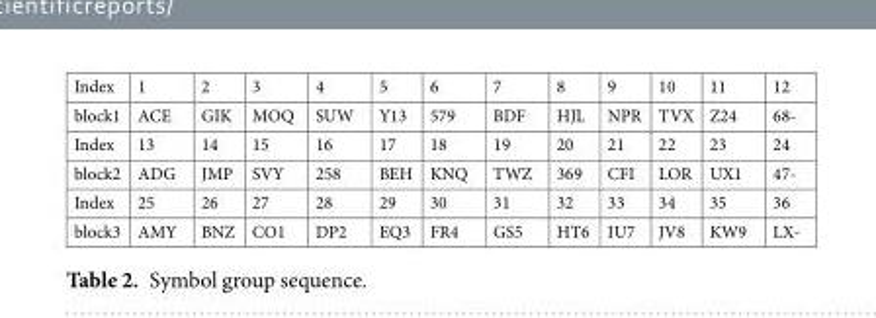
<table><tbody><tr><td>Index</td><td>1</td><td>2</td><td>3</td><td>4</td><td>5</td><td>6</td><td>7</td><td>8</td><td>9</td><td>10</td><td>11</td><td>12</td></tr><tr><td>block1</td><td>ACE</td><td>GIK</td><td>MOQ</td><td>SUW</td><td>Y13</td><td>579</td><td>BDF</td><td>HJL</td><td>NPR</td><td>TVX</td><td>Z24</td><td>68-</td></tr><tr><td>Index</td><td>13</td><td>14</td><td>15</td><td>16</td><td>17</td><td>18</td><td>19</td><td>20</td><td>21</td><td>22</td><td>23</td><td>24</td></tr><tr><td>block2</td><td>ADG</td><td>JMP</td><td>SVY</td><td>258</td><td>BEH</td><td>KNQ</td><td>TWZ</td><td>369</td><td>CFI</td><td>LOR</td><td>UX1</td><td>47-</td></tr><tr><td>Index</td><td>25</td><td>26</td><td>27</td><td>28</td><td>29</td><td>30</td><td>31</td><td>32</td><td>33</td><td>34</td><td>35</td><td>36</td></tr><tr><td>block3</td><td>AMY</td><td>BNZ</td><td>CO1</td><td>DP2</td><td>EQ3</td><td>FR4</td><td>GS5</td><td>HT6</td><td>IU7</td><td>JV8</td><td>KW9</td><td>LX-</td></tr></tbody></table>